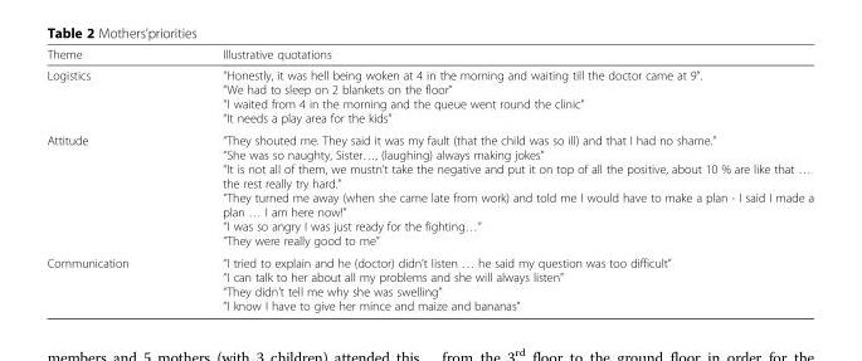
<table><thead><tr><td>Theme</td><td>Illustrative quotations</td></tr></thead><tbody><tr><td>Logistics</td><td>‘’Honestly, it was hell being woken at 4 in the morning and waiting till the doctor came at 9”. ‘’We had to sleep on 2 blankets on the floor” ‘’I waited from 4 in the morning and the queue went round the clinic” ‘’It needs a play area for the kids”</td></tr><tr><td>Attitude</td><td>‘’They shouted me. They said it was my fault (that the child was so ill) and that I had no shame.” ‘’She was so naughty, Sister…, (laughing) always making jokes” ‘’It is not all of them, we mustn’t take the negative and put it on top of all the positive, about 10 % are like that … the rest really try hard.” ‘’They turned me away (when she came late from work) and told me I would have to make a plan - I said I made a plan … I am here now!” ‘’I was so angry I was just ready for the fighting…” ‘’They were really good to me”</td></tr><tr><td>Communication</td><td>‘’I tried to explain and he (doctor) didn’t listen … he said my question was too difficult” ‘’I can talk to her about all my problems and she will always listen” ‘’They didn’t tell me why she was swelling” ‘’I know I have to give her mince and maize and bananas”</td></tr></tbody></table>